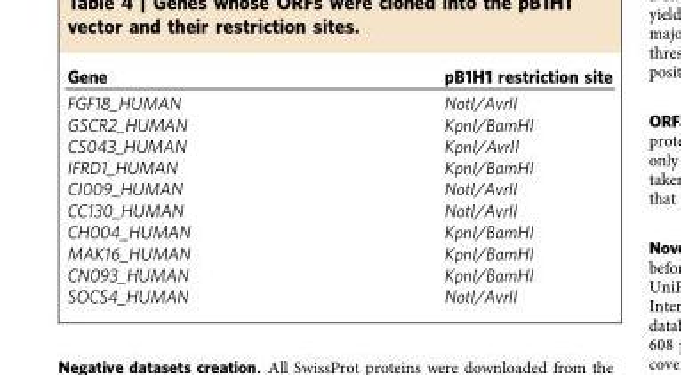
<table><thead><tr><td>Gene</td><td>pB1H1 restriction site</td></tr></thead><tbody><tr><td>FGF18_HUMAN</td><td>NotI/AvrII</td></tr><tr><td>GSCR2_HUMAN</td><td>KpnI/BamHI</td></tr><tr><td>CS043_HUMAN</td><td>KpnI/AvrII</td></tr><tr><td>IFRD1_HUMAN</td><td>KpnI/BamHI</td></tr><tr><td>CI009_HUMAN</td><td>NotI/AvrII</td></tr><tr><td>CC130_HUMAN</td><td>NotI/AvrII</td></tr><tr><td>CH004_HUMAN</td><td>KpnI/BamHI</td></tr><tr><td>MAK16_HUMAN</td><td>KpnI/BamHI</td></tr><tr><td>CN093_HUMAN</td><td>KpnI/BamHI</td></tr><tr><td>SOCS4_HUMAN</td><td>NotI/AvrII</td></tr></tbody></table>